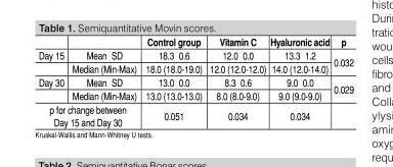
<table><thead><tr><td></td><td></td><td>Control group</td><td>Vitamin C</td><td>Hyaluronic acid</td><td>p</td></tr></thead><tbody><tr><td rowspan="2">Day 15</td><td>Mean±SD</td><td>18.3±0.6</td><td>12.0±0.0</td><td>13.3±1.2</td><td rowspan="2">0.032</td></tr><tr><td>Median (Min-Max)</td><td>18.0 (18.0-19.0)</td><td>12.0 (12.0-12.0)</td><td>14.0 (12.0-14.0)</td></tr><tr><td rowspan="2">Day 30</td><td>Mean±SD</td><td>13.0±0.0</td><td>8.3±0.6</td><td>9.0±0.0</td><td rowspan="2">0.029</td></tr><tr><td>Median (Min-Max)</td><td>13.0 (13.0-13.0)</td><td>8.0 (8.0-9.0)</td><td>9.0 (9.0-9.0)</td></tr><tr><td colspan="2">p for change between Day 15 and Day 30</td><td>0.051</td><td>0.034</td><td>0.034</td><td></td></tr></tbody></table>